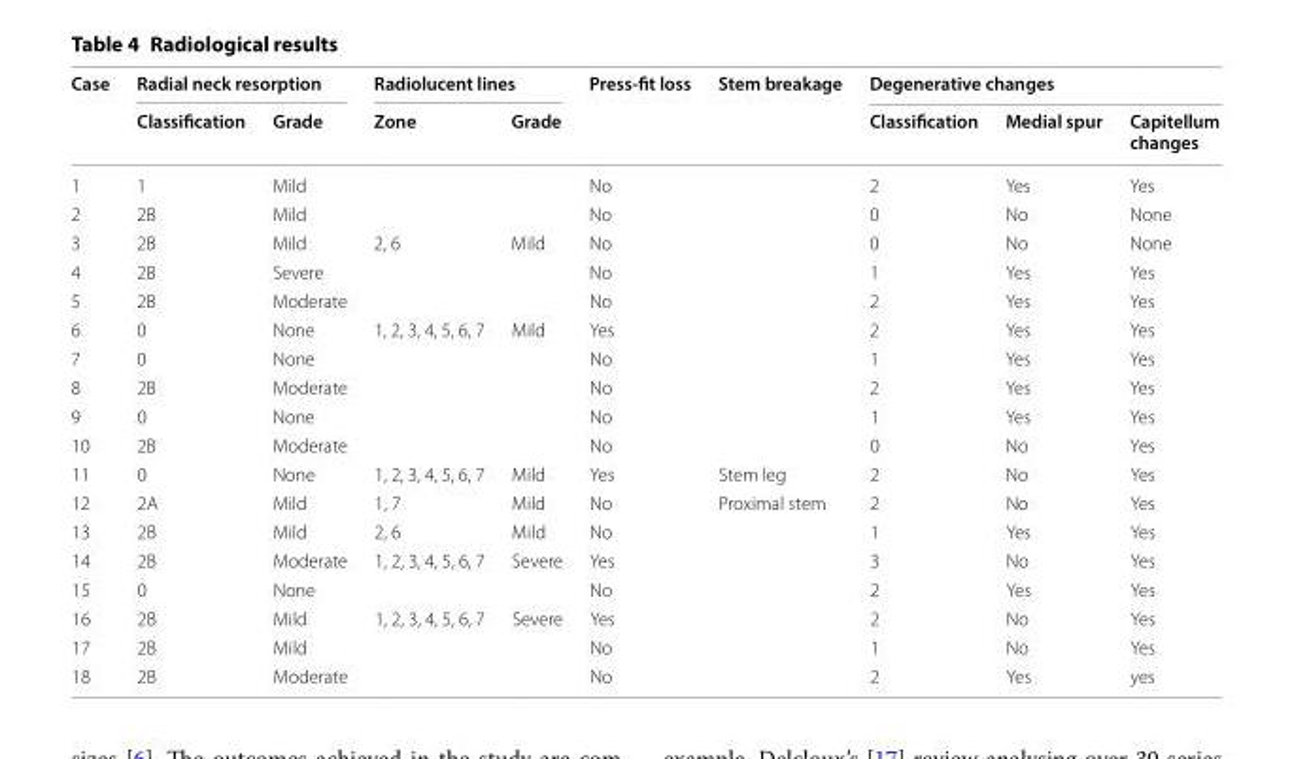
<table><thead><tr><td rowspan="2">Case</td><td colspan="2">Radial neck resorption</td><td colspan="2">Radiolucent lines</td><td rowspan="2">Press-fit loss</td><td rowspan="2">Stem breakage</td><td colspan="3">Degenerative changes</td></tr><tr><td>Classification</td><td>Grade</td><td>Zone</td><td>Grade</td><td>Classification</td><td>Medial spur</td><td>Capitellum changes</td></tr></thead><tbody><tr><td>1</td><td>1</td><td>Mild</td><td></td><td></td><td>No</td><td></td><td>2</td><td>Yes</td><td>Yes</td></tr><tr><td>2</td><td>2B</td><td>Mild</td><td></td><td></td><td>No</td><td></td><td>0</td><td>No</td><td>None</td></tr><tr><td>3</td><td>2B</td><td>Mild</td><td>2, 6</td><td>Mild</td><td>No</td><td></td><td>0</td><td>No</td><td>None</td></tr><tr><td>4</td><td>2B</td><td>Severe</td><td></td><td></td><td>No</td><td></td><td>1</td><td>Yes</td><td>Yes</td></tr><tr><td>5</td><td>2B</td><td>Moderate</td><td></td><td></td><td>No</td><td></td><td>2</td><td>Yes</td><td>Yes</td></tr><tr><td>6</td><td>0</td><td>None</td><td>1, 2, 3, 4, 5, 6, 7</td><td>Mild</td><td>Yes</td><td></td><td>2</td><td>Yes</td><td>Yes</td></tr><tr><td>7</td><td>0</td><td>None</td><td></td><td></td><td>No</td><td></td><td>1</td><td>Yes</td><td>Yes</td></tr><tr><td>8</td><td>2B</td><td>Moderate</td><td></td><td></td><td>No</td><td></td><td>2</td><td>Yes</td><td>Yes</td></tr><tr><td>9</td><td>0</td><td>None</td><td></td><td></td><td>No</td><td></td><td>1</td><td>Yes</td><td>Yes</td></tr><tr><td>10</td><td>2B</td><td>Moderate</td><td></td><td></td><td>No</td><td></td><td>0</td><td>No</td><td>Yes</td></tr><tr><td>11</td><td>0</td><td>None</td><td>1, 2, 3, 4, 5, 6, 7</td><td>Mild</td><td>Yes</td><td>Stem leg</td><td>2</td><td>No</td><td>Yes</td></tr><tr><td>12</td><td>2A</td><td>Mild</td><td>1, 7</td><td>Mild</td><td>No</td><td>Proximal stem</td><td>2</td><td>No</td><td>Yes</td></tr><tr><td>13</td><td>2B</td><td>Mild</td><td>2, 6</td><td>Mild</td><td>No</td><td></td><td>1</td><td>Yes</td><td>Yes</td></tr><tr><td>14</td><td>2B</td><td>Moderate</td><td>1, 2, 3, 4, 5, 6, 7</td><td>Severe</td><td>Yes</td><td></td><td>3</td><td>No</td><td>Yes</td></tr><tr><td>15</td><td>0</td><td>None</td><td></td><td></td><td>No</td><td></td><td>2</td><td>Yes</td><td>Yes</td></tr><tr><td>16</td><td>2B</td><td>Mild</td><td>1, 2, 3, 4, 5, 6, 7</td><td>Severe</td><td>Yes</td><td></td><td>2</td><td>No</td><td>Yes</td></tr><tr><td>17</td><td>2B</td><td>Mild</td><td></td><td></td><td>No</td><td></td><td>1</td><td>No</td><td>Yes</td></tr><tr><td>18</td><td>2B</td><td>Moderate</td><td></td><td></td><td>No</td><td></td><td>2</td><td>Yes</td><td>yes</td></tr></tbody></table>